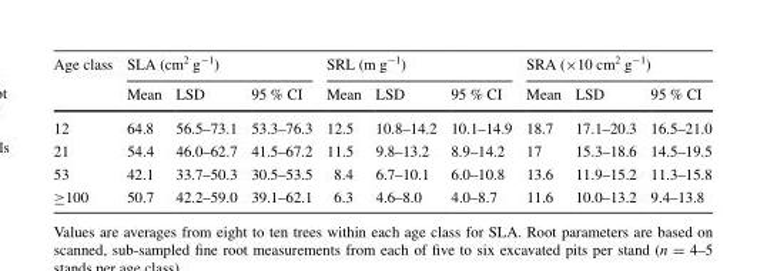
<table><thead><tr><td rowspan="2">Age class</td><td colspan="3">SLA (cm<sup>2</sup> g<sup>−1</sup>)</td><td colspan="3">SRL (m g<sup>−1</sup>)</td><td colspan="3">SRA (×10 cm<sup>2</sup> g<sup>−1</sup>)</td></tr><tr><td>Mean</td><td>LSD</td><td>95 % CI</td><td>Mean</td><td>LSD</td><td>95 % CI</td><td>Mean</td><td>LSD</td><td>95 % CI</td></tr></thead><tbody><tr><td>12</td><td>64.8</td><td>56.5–73.1</td><td>53.3–76.3</td><td>12.5</td><td>10.8–14.2</td><td>10.1–14.9</td><td>18.7</td><td>17.1–20.3</td><td>16.5–21.0</td></tr><tr><td>21</td><td>54.4</td><td>46.0–62.7</td><td>41.5–67.2</td><td>11.5</td><td>9.8–13.2</td><td>8.9–14.2</td><td>17</td><td>15.3–18.6</td><td>14.5–19.5</td></tr><tr><td>53</td><td>42.1</td><td>33.7–50.3</td><td>30.5–53.5</td><td>8.4</td><td>6.7–10.1</td><td>6.0–10.8</td><td>13.6</td><td>11.9–15.2</td><td>11.3–15.8</td></tr><tr><td>≥100</td><td>50.7</td><td>42.2–59.0</td><td>39.1–62.1</td><td>6.3</td><td>4.6–8.0</td><td>4.0–8.7</td><td>11.6</td><td>10.0–13.2</td><td>9.4–13.8</td></tr></tbody></table>